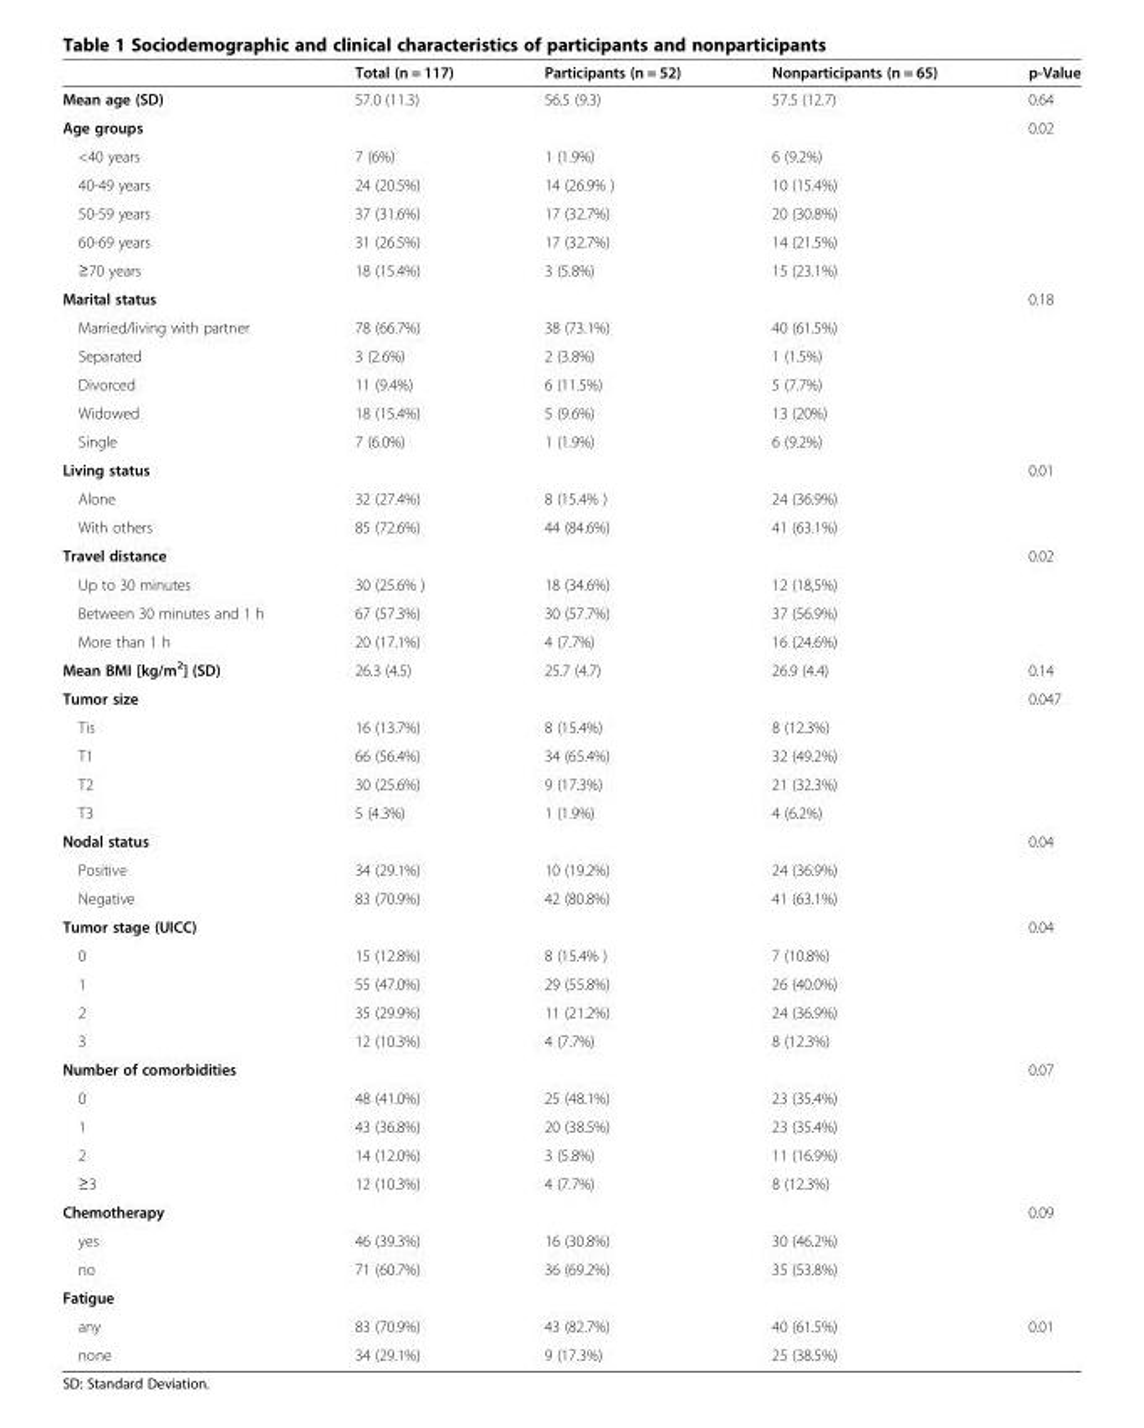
<table><thead><tr><td></td><td>Total (n = 117)</td><td>Participants (n = 52)</td><td>Nonparticipants (n = 65)</td><td>p-Value</td></tr></thead><tbody><tr><td>Mean age (SD)</td><td>57.0 (11.3)</td><td>56.5 (9.3)</td><td>57.5 (12.7)</td><td>0.64</td></tr><tr><td>Age groups</td><td></td><td></td><td></td><td>0.02</td></tr><tr><td>&lt;40 years</td><td>7 (6%)</td><td>1 (1.9%)</td><td>6 (9.2%)</td><td></td></tr><tr><td>40-49 years</td><td>24 (20.5%)</td><td>14 (26.9% )</td><td>10 (15.4%)</td><td></td></tr><tr><td>50-59 years</td><td>37 (31.6%)</td><td>17 (32.7%)</td><td>20 (30.8%)</td><td></td></tr><tr><td>60-69 years</td><td>31 (26.5%)</td><td>17 (32.7%)</td><td>14 (21.5%)</td><td></td></tr><tr><td>≥70 years</td><td>18 (15.4%)</td><td>3 (5.8%)</td><td>15 (23.1%)</td><td></td></tr><tr><td>Marital status</td><td></td><td></td><td></td><td>0.18</td></tr><tr><td>Married/living with partner</td><td>78 (66.7%)</td><td>38 (73.1%)</td><td>40 (61.5%)</td><td></td></tr><tr><td>Separated</td><td>3 (2.6%)</td><td>2 (3.8%)</td><td>1 (1.5%)</td><td></td></tr><tr><td>Divorced</td><td>11 (9.4%)</td><td>6 (11.5%)</td><td>5 (7.7%)</td><td></td></tr><tr><td>Widowed</td><td>18 (15.4%)</td><td>5 (9.6%)</td><td>13 (20%)</td><td></td></tr><tr><td>Single</td><td>7 (6.0%)</td><td>1 (1.9%)</td><td>6 (9.2%)</td><td></td></tr><tr><td>Living status</td><td></td><td></td><td></td><td>0.01</td></tr><tr><td>Alone</td><td>32 (27.4%)</td><td>8 (15.4% )</td><td>24 (36.9%)</td><td></td></tr><tr><td>With others</td><td>85 (72.6%)</td><td>44 (84.6%)</td><td>41 (63.1%)</td><td></td></tr><tr><td>Travel distance</td><td></td><td></td><td></td><td>0.02</td></tr><tr><td>Up to 30 minutes</td><td>30 (25.6% )</td><td>18 (34.6%)</td><td>12 (18,5%)</td><td></td></tr><tr><td>Between 30 minutes and 1 h</td><td>67 (57.3%)</td><td>30 (57.7%)</td><td>37 (56.9%)</td><td></td></tr><tr><td>More than 1 h</td><td>20 (17.1%)</td><td>4 (7.7%)</td><td>16 (24.6%)</td><td></td></tr><tr><td>Mean BMI [kg/m<sup>2</sup>] (SD)</td><td>26.3 (4.5)</td><td>25.7 (4.7)</td><td>26.9 (4.4)</td><td>0.14</td></tr><tr><td>Tumor size</td><td></td><td></td><td></td><td>0.047</td></tr><tr><td>Tis</td><td>16 (13.7%)</td><td>8 (15.4%)</td><td>8 (12.3%)</td><td></td></tr><tr><td>T1</td><td>66 (56.4%)</td><td>34 (65.4%)</td><td>32 (49.2%)</td><td></td></tr><tr><td>T2</td><td>30 (25.6%)</td><td>9 (17.3%)</td><td>21 (32.3%)</td><td></td></tr><tr><td>T3</td><td>5 (4.3%)</td><td>1 (1.9%)</td><td>4 (6.2%)</td><td></td></tr><tr><td>Nodal status</td><td></td><td></td><td></td><td>0.04</td></tr><tr><td>Positive</td><td>34 (29.1%)</td><td>10 (19.2%)</td><td>24 (36.9%)</td><td></td></tr><tr><td>Negative</td><td>83 (70.9%)</td><td>42 (80.8%)</td><td>41 (63.1%)</td><td></td></tr><tr><td>Tumor stage (UICC)</td><td></td><td></td><td></td><td>0.04</td></tr><tr><td>0</td><td>15 (12.8%)</td><td>8 (15.4% )</td><td>7 (10.8%)</td><td></td></tr><tr><td>1</td><td>55 (47.0%)</td><td>29 (55.8%)</td><td>26 (40.0%)</td><td></td></tr><tr><td>2</td><td>35 (29.9%)</td><td>11 (21.2%)</td><td>24 (36.9%)</td><td></td></tr><tr><td>3</td><td>12 (10.3%)</td><td>4 (7.7%)</td><td>8 (12.3%)</td><td></td></tr><tr><td>Number of comorbidities</td><td></td><td></td><td></td><td>0.07</td></tr><tr><td>0</td><td>48 (41.0%)</td><td>25 (48.1%)</td><td>23 (35.4%)</td><td></td></tr><tr><td>1</td><td>43 (36.8%)</td><td>20 (38.5%)</td><td>23 (35.4%)</td><td></td></tr><tr><td>2</td><td>14 (12.0%)</td><td>3 (5.8%)</td><td>11 (16.9%)</td><td></td></tr><tr><td>≥3</td><td>12 (10.3%)</td><td>4 (7.7%)</td><td>8 (12.3%)</td><td></td></tr><tr><td>Chemotherapy</td><td></td><td></td><td></td><td>0.09</td></tr><tr><td>yes</td><td>46 (39.3%)</td><td>16 (30.8%)</td><td>30 (46.2%)</td><td></td></tr><tr><td>no</td><td>71 (60.7%)</td><td>36 (69.2%)</td><td>35 (53.8%)</td><td></td></tr><tr><td colspan="5">Fatigue</td></tr><tr><td>any</td><td>83 (70.9%)</td><td>43 (82.7%)</td><td>40 (61.5%)</td><td>0.01</td></tr><tr><td>none</td><td>34 (29.1%)</td><td>9 (17.3%)</td><td>25 (38.5%)</td><td></td></tr></tbody></table>